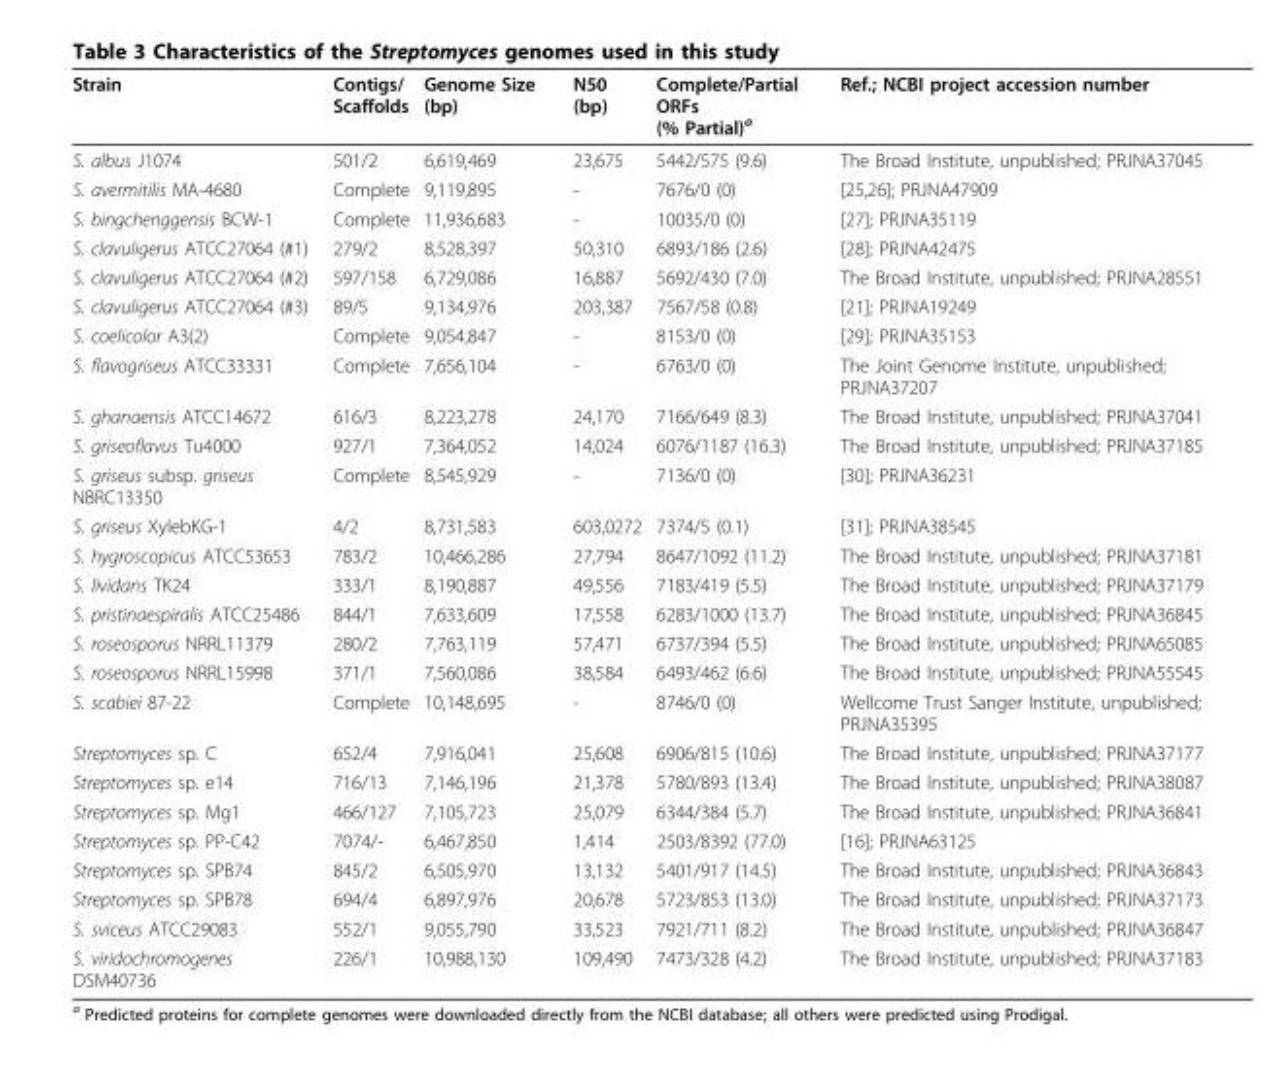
<table><thead><tr><td>Strain</td><td>Contigs/ Scaffolds</td><td>Genome Size (bp)</td><td>N50 (bp)</td><td>Complete/Partial ORFs (% Partial)<sup>a</sup></td><td>Ref.; NCBI project accession number</td></tr></thead><tbody><tr><td>S. albus J1074</td><td>501/2</td><td>6,619,469</td><td>23,675</td><td>5442/575 (9.6)</td><td>The Broad Institute, unpublished; PRJNA37045</td></tr><tr><td>S. avermitilis MA-4680</td><td>Complete</td><td>9,119,895</td><td>-</td><td>7676/0 (0)</td><td>[25,26]; PRJNA47909</td></tr><tr><td>S. bingchenggensis BCW-1</td><td>Complete</td><td>11,936,683</td><td>-</td><td>10035/0 (0)</td><td>[27]; PRJNA35119</td></tr><tr><td>S. clavuligerus ATCC27064 (#1)</td><td>279/2</td><td>8,528,397</td><td>50,310</td><td>6893/186 (2.6)</td><td>[28]; PRJNA42475</td></tr><tr><td>S. clavuligerus ATCC27064 (#2)</td><td>597/158</td><td>6,729,086</td><td>16,887</td><td>5692/430 (7.0)</td><td>The Broad Institute, unpublished; PRJNA28551</td></tr><tr><td>S. clavuligerus ATCC27064 (#3)</td><td>89/5</td><td>9,134,976</td><td>203,387</td><td>7567/58 (0.8)</td><td>[21]; PRJNA19249</td></tr><tr><td>S. coelicolor A3(2)</td><td>Complete</td><td>9,054,847</td><td>-</td><td>8153/0 (0)</td><td>[29]; PRJNA35153</td></tr><tr><td>S. flavogriseus ATCC33331</td><td>Complete</td><td>7,656,104</td><td>-</td><td>6763/0 (0)</td><td>The Joint Genome Institute, unpublished; PRJNA37207</td></tr><tr><td>S. ghanaensis ATCC14672</td><td>616/3</td><td>8,223,278</td><td>24,170</td><td>7166/649 (8.3)</td><td>The Broad Institute, unpublished; PRJNA37041</td></tr><tr><td>S. griseoflavus Tu4000</td><td>927/1</td><td>7,364,052</td><td>14,024</td><td>6076/1187 (16.3)</td><td>The Broad Institute, unpublished; PRJNA37185</td></tr><tr><td>S. griseus subsp. griseus NBRC13350</td><td>Complete</td><td>8,545,929</td><td>-</td><td>7136/0 (0)</td><td>[30]; PRJNA36231</td></tr><tr><td>S. griseus XylebKG-1</td><td>4/2</td><td>8,731,583</td><td>603,0272</td><td>7374/5 (0.1)</td><td>[31]; PRJNA38545</td></tr><tr><td>S. hygroscopicus ATCC53653</td><td>783/2</td><td>10,466,286</td><td>27,794</td><td>8647/1092 (11.2)</td><td>The Broad Institute, unpublished; PRJNA37181</td></tr><tr><td>S. lividans TK24</td><td>333/1</td><td>8,190,887</td><td>49,556</td><td>7183/419 (5.5)</td><td>The Broad Institute, unpublished; PRJNA37179</td></tr><tr><td>S. pristinaespiralis ATCC25486</td><td>844/1</td><td>7,633,609</td><td>17,558</td><td>6283/1000 (13.7)</td><td>The Broad Institute, unpublished; PRJNA36845</td></tr><tr><td>S. roseosporus NRRL11379</td><td>280/2</td><td>7,763,119</td><td>57,471</td><td>6737/394 (5.5)</td><td>The Broad Institute, unpublished; PRJNA65085</td></tr><tr><td>S. roseosporus NRRL15998</td><td>371/1</td><td>7,560,086</td><td>38,584</td><td>6493/462 (6.6)</td><td>The Broad Institute, unpublished; PRJNA55545</td></tr><tr><td>S. scabiei 87-22</td><td>Complete</td><td>10,148,695</td><td>-</td><td>8746/0 (0)</td><td>Wellcome Trust Sanger Institute, unpublished; PRJNA35395</td></tr><tr><td>Streptomyces sp. C</td><td>652/4</td><td>7,916,041</td><td>25,608</td><td>6906/815 (10.6)</td><td>The Broad Institute, unpublished; PRJNA37177</td></tr><tr><td>Streptomyces sp. e14</td><td>716/13</td><td>7,146,196</td><td>21,378</td><td>5780/893 (13.4)</td><td>The Broad Institute, unpublished; PRJNA38087</td></tr><tr><td>Streptomyces sp. Mg1</td><td>466/127</td><td>7,105,723</td><td>25,079</td><td>6344/384 (5.7)</td><td>The Broad Institute, unpublished; PRJNA36841</td></tr><tr><td>Streptomyces sp. PP-C42</td><td>7074/-</td><td>6,467,850</td><td>1,414</td><td>2503/8392 (77.0)</td><td>[16]; PRJNA63125</td></tr><tr><td>Streptomyces sp. SPB74</td><td>845/2</td><td>6,505,970</td><td>13,132</td><td>5401/917 (14.5)</td><td>The Broad Institute, unpublished; PRJNA36843</td></tr><tr><td>Streptomyces sp. SPB78</td><td>694/4</td><td>6,897,976</td><td>20,678</td><td>5723/853 (13.0)</td><td>The Broad Institute, unpublished; PRJNA37173</td></tr><tr><td>S. sviceus ATCC29083</td><td>552/1</td><td>9,055,790</td><td>33,523</td><td>7921/711 (8.2)</td><td>The Broad Institute, unpublished; PRJNA36847</td></tr><tr><td>S. viridochromogenes DSM40736</td><td>226/1</td><td>10,988,130</td><td>109,490</td><td>7473/328 (4.2)</td><td>The Broad Institute, unpublished; PRJNA37183</td></tr></tbody></table>